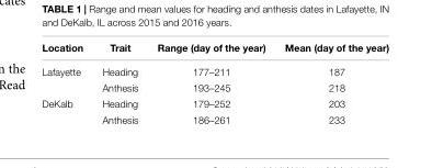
<table><thead><tr><td>Location</td><td>Trait</td><td>Range (day of the year)</td><td>Mean (day of the year)</td></tr></thead><tbody><tr><td rowspan="2">Lafayette</td><td>Heading</td><td>177–211</td><td>187</td></tr><tr><td>Anthesis</td><td>193–245</td><td>218</td></tr><tr><td rowspan="2">DeKalb</td><td>Heading</td><td>179–252</td><td>203</td></tr><tr><td>Anthesis</td><td>186–261</td><td>233</td></tr></tbody></table>